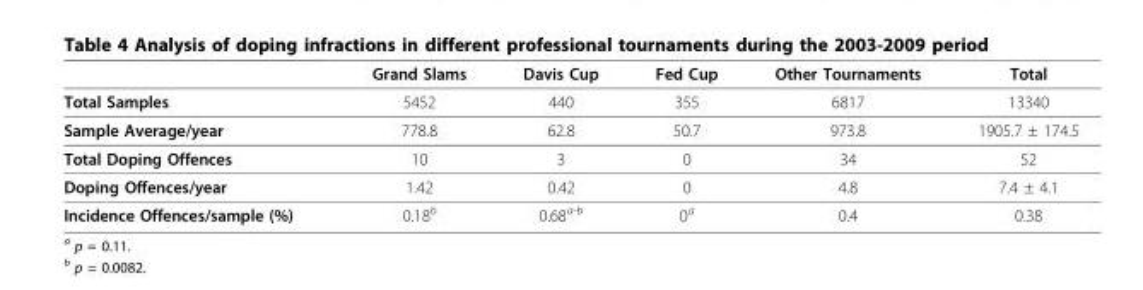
<table><thead><tr><td></td><td>Grand Slams</td><td>Davis Cup</td><td>Fed Cup</td><td>Other Tournaments</td><td>Total</td></tr></thead><tbody><tr><td>Total Samples</td><td>5452</td><td>440</td><td>355</td><td>6817</td><td>13340</td></tr><tr><td>Sample Average/year</td><td>778.8</td><td>62.8</td><td>50.7</td><td>973.8</td><td>1905.7 ± 174.5</td></tr><tr><td>Total Doping Offences</td><td>10</td><td>3</td><td>0</td><td>34</td><td>52</td></tr><tr><td>Doping Offences/year</td><td>1.42</td><td>0.42</td><td>0</td><td>4.8</td><td>7.4 ± 4.1</td></tr><tr><td>Incidence Offences/sample (%)</td><td>0.18<sup>b</sup></td><td>0.68<sup>a-b</sup></td><td>0<sup>a</sup></td><td>0.4</td><td>0.38</td></tr></tbody></table>